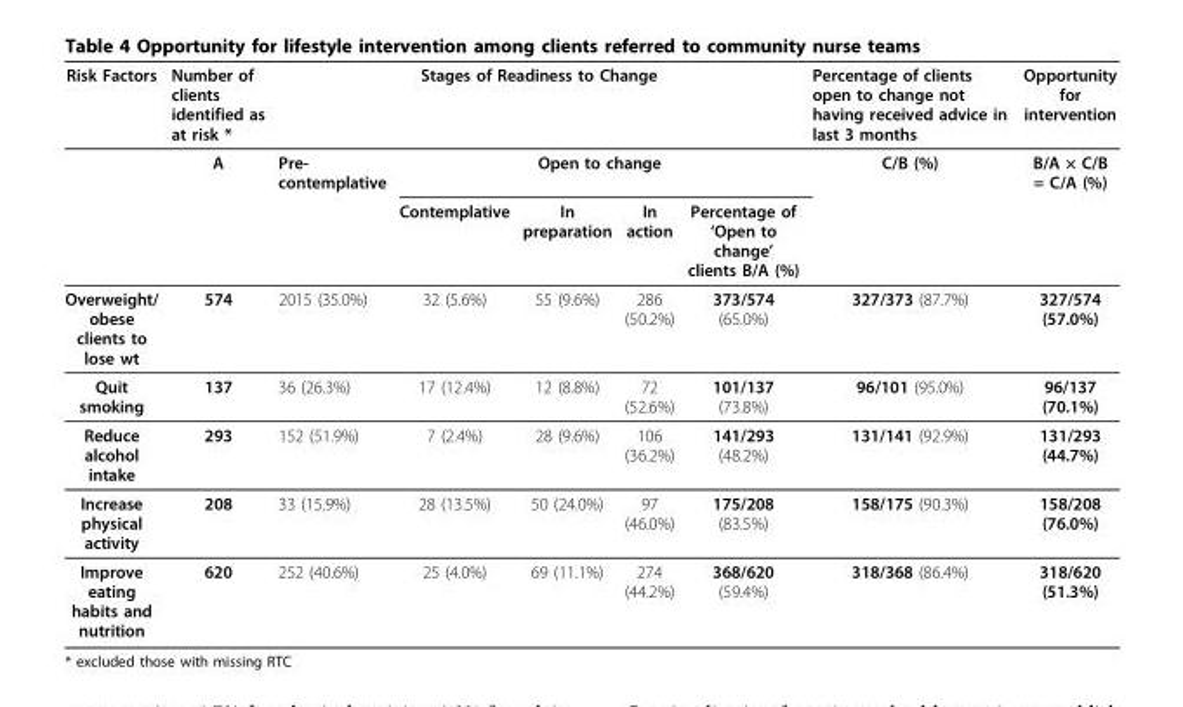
<table><thead><tr><td rowspan="3">Risk Factors</td><td rowspan="3">Number of clients identified as at risk * A</td><td colspan="5">Stages of Readiness to Change</td><td rowspan="3">Percentage of clients open to change not having received advice in last 3 months C/B (%)</td><td rowspan="3">Opportunity for intervention B/A × C/B = C/A (%)</td></tr><tr><td rowspan="2">Pre- contemplative</td><td colspan="4">Open to change</td></tr><tr><td>Contemplative</td><td>In preparation</td><td>In action</td><td>Percentage of ‘Open to change’ clients B/A (%)</td></tr></thead><tbody><tr><td>Overweight/ obese clients to lose wt</td><td>574</td><td>2015 (35.0%)</td><td>32 (5.6%)</td><td>55 (9.6%)</td><td>286 (50.2%)</td><td>373/574 (65.0%)</td><td>327/373 (87.7%)</td><td>327/574 (57.0%)</td></tr><tr><td>Quit smoking</td><td>137</td><td>36 (26.3%)</td><td>17 (12.4%)</td><td>12 (8.8%)</td><td>72 (52.6%)</td><td>101/137 (73.8%)</td><td>96/101 (95.0%)</td><td>96/137 (70.1%)</td></tr><tr><td>Reduce alcohol intake</td><td>293</td><td>152 (51.9%)</td><td>7 (2.4%)</td><td>28 (9.6%)</td><td>106 (36.2%)</td><td>141/293 (48.2%)</td><td>131/141 (92.9%)</td><td>131/293 (44.7%)</td></tr><tr><td>Increase physical activity</td><td>208</td><td>33 (15.9%)</td><td>28 (13.5%)</td><td>50 (24.0%)</td><td>97 (46.0%)</td><td>175/208 (83.5%)</td><td>158/175 (90.3%)</td><td>158/208 (76.0%)</td></tr><tr><td>Improve eating habits and nutrition</td><td>620</td><td>252 (40.6%)</td><td>25 (4.0%)</td><td>69 (11.1%)</td><td>274 (44.2%)</td><td>368/620 (59.4%)</td><td>318/368 (86.4%)</td><td>318/620 (51.3%)</td></tr></tbody></table>